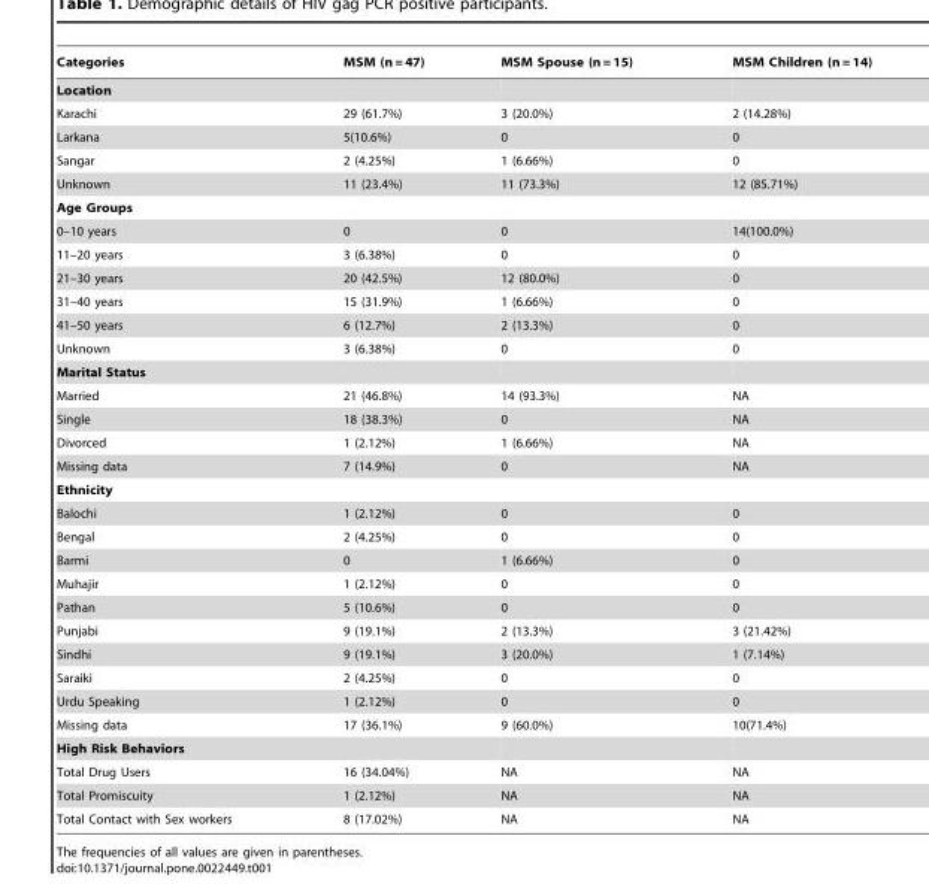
<table><thead><tr><td>Categories</td><td>MSM (n = 47)</td><td>MSM Spouse (n = 15)</td><td>MSM Children (n = 14)</td></tr></thead><tbody><tr><td colspan="4">Location</td></tr><tr><td>Karachi</td><td>29 (61.7%)</td><td>3 (20.0%)</td><td>2 (14.28%)</td></tr><tr><td>Larkana</td><td>5(10.6%)</td><td>0</td><td>0</td></tr><tr><td>Sangar</td><td>2 (4.25%)</td><td>1 (6.66%)</td><td>0</td></tr><tr><td>Unknown</td><td>11 (23.4%)</td><td>11 (73.3%)</td><td>12 (85.71%)</td></tr><tr><td colspan="4">Age Groups</td></tr><tr><td>0–10 years</td><td>0</td><td>0</td><td>14(100.0%)</td></tr><tr><td>11–20 years</td><td>3 (6.38%)</td><td>0</td><td>0</td></tr><tr><td>21–30 years</td><td>20 (42.5%)</td><td>12 (80.0%)</td><td>0</td></tr><tr><td>31–40 years</td><td>15 (31.9%)</td><td>1 (6.66%)</td><td>0</td></tr><tr><td>41–50 years</td><td>6 (12.7%)</td><td>2 (13.3%)</td><td>0</td></tr><tr><td>Unknown</td><td>3 (6.38%)</td><td>0</td><td>0</td></tr><tr><td colspan="4">Marital Status</td></tr><tr><td>Married</td><td>21 (46.8%)</td><td>14 (93.3%)</td><td>NA</td></tr><tr><td>Single</td><td>18 (38.3%)</td><td>0</td><td>NA</td></tr><tr><td>Divorced</td><td>1 (2.12%)</td><td>1 (6.66%)</td><td>NA</td></tr><tr><td>Missing data</td><td>7 (14.9%)</td><td>0</td><td>NA</td></tr><tr><td colspan="4">Ethnicity</td></tr><tr><td>Balochi</td><td>1 (2.12%)</td><td>0</td><td>0</td></tr><tr><td>Bengal</td><td>2 (4.25%)</td><td>0</td><td>0</td></tr><tr><td>Barmi</td><td>0</td><td>1 (6.66%)</td><td>0</td></tr><tr><td>Muhajir</td><td>1 (2.12%)</td><td>0</td><td>0</td></tr><tr><td>Pathan</td><td>5 (10.6%)</td><td>0</td><td>0</td></tr><tr><td>Punjabi</td><td>9 (19.1%)</td><td>2 (13.3%)</td><td>3 (21.42%)</td></tr><tr><td>Sindhi</td><td>9 (19.1%)</td><td>3 (20.0%)</td><td>1 (7.14%)</td></tr><tr><td>Saraiki</td><td>2 (4.25%)</td><td>0</td><td>0</td></tr><tr><td>Urdu Speaking</td><td>1 (2.12%)</td><td>0</td><td>0</td></tr><tr><td>Missing data</td><td>17 (36.1%)</td><td>9 (60.0%)</td><td>10(71.4%)</td></tr><tr><td colspan="4">High Risk Behaviors</td></tr><tr><td>Total Drug Users</td><td>16 (34.04%)</td><td>NA</td><td>NA</td></tr><tr><td>Total Promiscuity</td><td>1 (2.12%)</td><td>NA</td><td>NA</td></tr><tr><td>Total Contact with Sex workers</td><td>8 (17.02%)</td><td>NA</td><td>NA</td></tr></tbody></table>